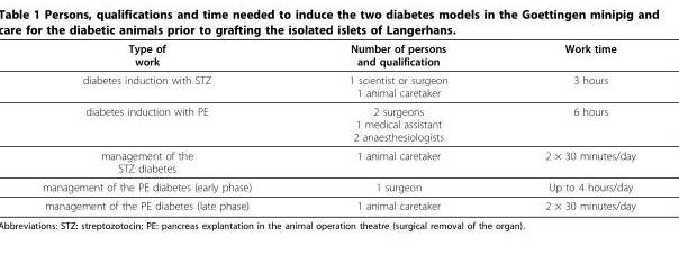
<table><thead><tr><td>Type of work</td><td>Number of persons and qualification</td><td>Work time</td></tr></thead><tbody><tr><td>diabetes induction with STZ</td><td>1 scientist or surgeon 1 animal caretaker</td><td>3 hours</td></tr><tr><td>diabetes induction with PE</td><td>2 surgeons 1 medical assistant 2 anaesthesiologists</td><td>6 hours</td></tr><tr><td>management of the STZ diabetes</td><td>1 animal caretaker</td><td>2 × 30 minutes/day</td></tr><tr><td>management of the PE diabetes (early phase)</td><td>1 surgeon</td><td>Up to 4 hours/day</td></tr><tr><td>management of the PE diabetes (late phase)</td><td>1 animal caretaker</td><td>2 × 30 minutes/day</td></tr></tbody></table>